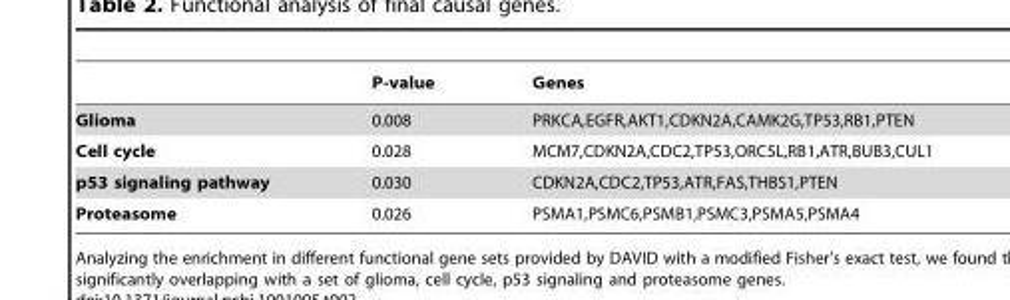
<table><thead><tr><td></td><td>P-value</td><td>Genes</td></tr></thead><tbody><tr><td>Glioma</td><td>0.008</td><td>PRKCA,EGFR,AKT1,CDKN2A,CAMK2G,TP53,RB1,PTEN</td></tr><tr><td>Cell cycle</td><td>0.028</td><td>MCM7,CDKN2A,CDC2,TP53,ORC5L,RB1,ATR,BUB3,CUL1</td></tr><tr><td>p53 signaling pathway</td><td>0.030</td><td>CDKN2A,CDC2,TP53,ATR,FAS,THBS1,PTEN</td></tr><tr><td>Proteasome</td><td>0.026</td><td>PSMA1,PSMC6,PSMB1,PSMC3,PSMA5,PSMA4</td></tr></tbody></table>